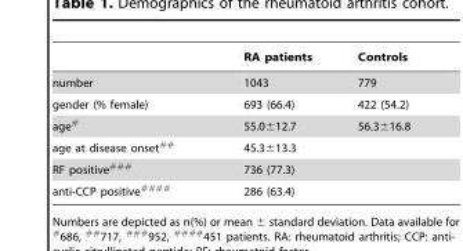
<table><thead><tr><td></td><td>RA patients</td><td>Controls</td></tr></thead><tbody><tr><td>number</td><td>1043</td><td>779</td></tr><tr><td>gender (% female)</td><td>693 (66.4)</td><td>422 (54.2)</td></tr><tr><td>age<sup>#</sup></td><td>55.0±12.7</td><td>56.3±16.8</td></tr><tr><td>age at disease onset<sup>##</sup></td><td>45.3±13.3</td><td></td></tr><tr><td>RF positive<sup>###</sup></td><td>736 (77.3)</td><td></td></tr><tr><td>anti-CCP positive<sup>####</sup></td><td>286 (63.4)</td><td></td></tr></tbody></table>